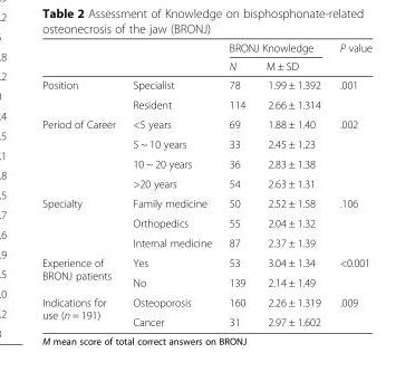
<table><thead><tr><td rowspan="2"></td><td rowspan="2"></td><td colspan="2">BRONJ Knowledge</td><td rowspan="2">P value</td></tr><tr><td>N</td><td>M ± SD</td></tr></thead><tbody><tr><td rowspan="2">Position</td><td>Specialist</td><td>78</td><td>1.99 ± 1.392</td><td>.001</td></tr><tr><td>Resident</td><td>114</td><td>2.66 ± 1.314</td><td></td></tr><tr><td rowspan="4">Period of Career</td><td>&lt;5 years</td><td>69</td><td>1.88 ± 1.40</td><td>.002</td></tr><tr><td>5 ~ 10 years</td><td>33</td><td>2.45 ± 1.23</td><td></td></tr><tr><td>10 ~ 20 years</td><td>36</td><td>2.83 ± 1.38</td><td></td></tr><tr><td>&gt;20 years</td><td>54</td><td>2.63 ± 1.31</td><td></td></tr><tr><td rowspan="3">Specialty</td><td>Family medicine</td><td>50</td><td>2.52 ± 1.58</td><td>.106</td></tr><tr><td>Orthopedics</td><td>55</td><td>2.04 ± 1.32</td><td></td></tr><tr><td>Internal medicine</td><td>87</td><td>2.37 ± 1.39</td><td></td></tr><tr><td rowspan="2">Experience of BRONJ patients</td><td>Yes</td><td>53</td><td>3.04 ± 1.34</td><td>&lt;0.001</td></tr><tr><td>No</td><td>139</td><td>2.14 ± 1.49</td><td></td></tr><tr><td rowspan="2">Indications for use (n = 191)</td><td>Osteoporosis</td><td>160</td><td>2.26 ± 1.319</td><td>.009</td></tr><tr><td>Cancer</td><td>31</td><td>2.97 ± 1.602</td><td></td></tr></tbody></table>